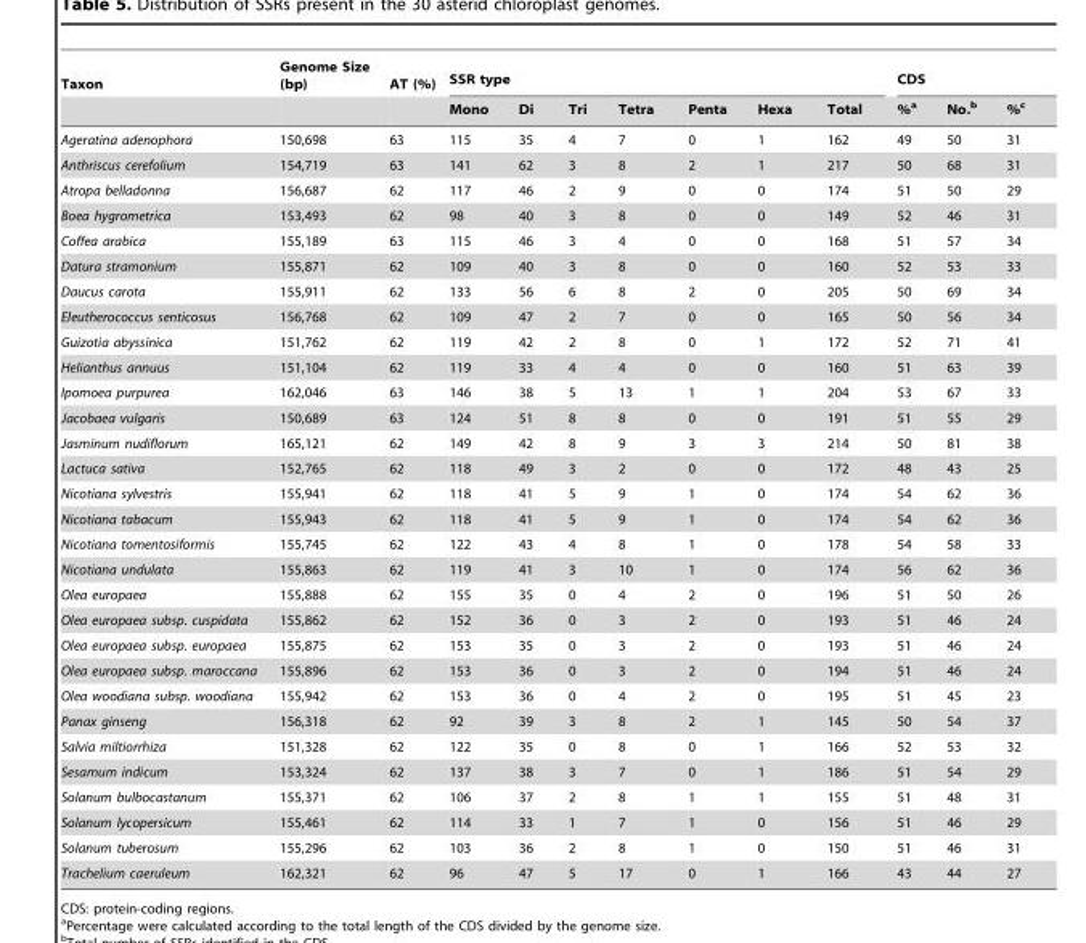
<table><thead><tr><td rowspan="2">Taxon</td><td rowspan="2">Genome Size (bp)</td><td rowspan="2">AT (%)</td><td colspan="7">SSR type</td><td colspan="3">CDS</td></tr><tr><td>Mono</td><td>Di</td><td>Tri</td><td>Tetra</td><td>Penta</td><td>Hexa</td><td>Total</td><td>%<sup>a</sup></td><td>No.<sup>b</sup></td><td>%<sup>c</sup></td></tr></thead><tbody><tr><td>Ageratina adenophora</td><td>150,698</td><td>63</td><td>115</td><td>35</td><td>4</td><td>7</td><td>0</td><td>1</td><td>162</td><td>49</td><td>50</td><td>31</td></tr><tr><td>Anthriscus cerefolium</td><td>154,719</td><td>63</td><td>141</td><td>62</td><td>3</td><td>8</td><td>2</td><td>1</td><td>217</td><td>50</td><td>68</td><td>31</td></tr><tr><td>Atropa belladonna</td><td>156,687</td><td>62</td><td>117</td><td>46</td><td>2</td><td>9</td><td>0</td><td>0</td><td>174</td><td>51</td><td>50</td><td>29</td></tr><tr><td>Boea hygrometrica</td><td>153,493</td><td>62</td><td>98</td><td>40</td><td>3</td><td>8</td><td>0</td><td>0</td><td>149</td><td>52</td><td>46</td><td>31</td></tr><tr><td>Coffea arabica</td><td>155,189</td><td>63</td><td>115</td><td>46</td><td>3</td><td>4</td><td>0</td><td>0</td><td>168</td><td>51</td><td>57</td><td>34</td></tr><tr><td>Datura stramonium</td><td>155,871</td><td>62</td><td>109</td><td>40</td><td>3</td><td>8</td><td>0</td><td>0</td><td>160</td><td>52</td><td>53</td><td>33</td></tr><tr><td>Daucus carota</td><td>155,911</td><td>62</td><td>133</td><td>56</td><td>6</td><td>8</td><td>2</td><td>0</td><td>205</td><td>50</td><td>69</td><td>34</td></tr><tr><td>Eleutherococcus senticosus</td><td>156,768</td><td>62</td><td>109</td><td>47</td><td>2</td><td>7</td><td>0</td><td>0</td><td>165</td><td>50</td><td>56</td><td>34</td></tr><tr><td>Guizotia abyssinica</td><td>151,762</td><td>62</td><td>119</td><td>42</td><td>2</td><td>8</td><td>0</td><td>1</td><td>172</td><td>52</td><td>71</td><td>41</td></tr><tr><td>Helianthus annuus</td><td>151,104</td><td>62</td><td>119</td><td>33</td><td>4</td><td>4</td><td>0</td><td>0</td><td>160</td><td>51</td><td>63</td><td>39</td></tr><tr><td>Ipomoea purpurea</td><td>162,046</td><td>63</td><td>146</td><td>38</td><td>5</td><td>13</td><td>1</td><td>1</td><td>204</td><td>53</td><td>67</td><td>33</td></tr><tr><td>Jacobaea vulgaris</td><td>150,689</td><td>63</td><td>124</td><td>51</td><td>8</td><td>8</td><td>0</td><td>0</td><td>191</td><td>51</td><td>55</td><td>29</td></tr><tr><td>Jasminum nudiflorum</td><td>165,121</td><td>62</td><td>149</td><td>42</td><td>8</td><td>9</td><td>3</td><td>3</td><td>214</td><td>50</td><td>81</td><td>38</td></tr><tr><td>Lactuca sativa</td><td>152,765</td><td>62</td><td>118</td><td>49</td><td>3</td><td>2</td><td>0</td><td>0</td><td>172</td><td>48</td><td>43</td><td>25</td></tr><tr><td>Nicotiana sylvestris</td><td>155,941</td><td>62</td><td>118</td><td>41</td><td>5</td><td>9</td><td>1</td><td>0</td><td>174</td><td>54</td><td>62</td><td>36</td></tr><tr><td>Nicotiana tabacum</td><td>155,943</td><td>62</td><td>118</td><td>41</td><td>5</td><td>9</td><td>1</td><td>0</td><td>174</td><td>54</td><td>62</td><td>36</td></tr><tr><td>Nicotiana tomentosiformis</td><td>155,745</td><td>62</td><td>122</td><td>43</td><td>4</td><td>8</td><td>1</td><td>0</td><td>178</td><td>54</td><td>58</td><td>33</td></tr><tr><td>Nicotiana undulata</td><td>155,863</td><td>62</td><td>119</td><td>41</td><td>3</td><td>10</td><td>1</td><td>0</td><td>174</td><td>56</td><td>62</td><td>36</td></tr><tr><td>Olea europaea</td><td>155,888</td><td>62</td><td>155</td><td>35</td><td>0</td><td>4</td><td>2</td><td>0</td><td>196</td><td>51</td><td>50</td><td>26</td></tr><tr><td>Olea europaea subsp. cuspidata</td><td>155,862</td><td>62</td><td>152</td><td>36</td><td>0</td><td>3</td><td>2</td><td>0</td><td>193</td><td>51</td><td>46</td><td>24</td></tr><tr><td>Olea europaea subsp. europaea</td><td>155,875</td><td>62</td><td>153</td><td>35</td><td>0</td><td>3</td><td>2</td><td>0</td><td>193</td><td>51</td><td>46</td><td>24</td></tr><tr><td>Olea europaea subsp. maroccana</td><td>155,896</td><td>62</td><td>153</td><td>36</td><td>0</td><td>3</td><td>2</td><td>0</td><td>194</td><td>51</td><td>46</td><td>24</td></tr><tr><td>Olea woodiana subsp. woodiana</td><td>155,942</td><td>62</td><td>153</td><td>36</td><td>0</td><td>4</td><td>2</td><td>0</td><td>195</td><td>51</td><td>45</td><td>23</td></tr><tr><td>Panax ginseng</td><td>156,318</td><td>62</td><td>92</td><td>39</td><td>3</td><td>8</td><td>2</td><td>1</td><td>145</td><td>50</td><td>54</td><td>37</td></tr><tr><td>Salvia miltiorrhiza</td><td>151,328</td><td>62</td><td>122</td><td>35</td><td>0</td><td>8</td><td>0</td><td>1</td><td>166</td><td>52</td><td>53</td><td>32</td></tr><tr><td>Sesamum indicum</td><td>153,324</td><td>62</td><td>137</td><td>38</td><td>3</td><td>7</td><td>0</td><td>1</td><td>186</td><td>51</td><td>54</td><td>29</td></tr><tr><td>Solanum bulbocastanum</td><td>155,371</td><td>62</td><td>106</td><td>37</td><td>2</td><td>8</td><td>1</td><td>1</td><td>155</td><td>51</td><td>48</td><td>31</td></tr><tr><td>Solanum lycopersicum</td><td>155,461</td><td>62</td><td>114</td><td>33</td><td>1</td><td>7</td><td>1</td><td>0</td><td>156</td><td>51</td><td>46</td><td>29</td></tr><tr><td>Solanum tuberosum</td><td>155,296</td><td>62</td><td>103</td><td>36</td><td>2</td><td>8</td><td>1</td><td>0</td><td>150</td><td>51</td><td>46</td><td>31</td></tr><tr><td>Trachelium caeruleum</td><td>162,321</td><td>62</td><td>96</td><td>47</td><td>5</td><td>17</td><td>0</td><td>1</td><td>166</td><td>43</td><td>44</td><td>27</td></tr></tbody></table>